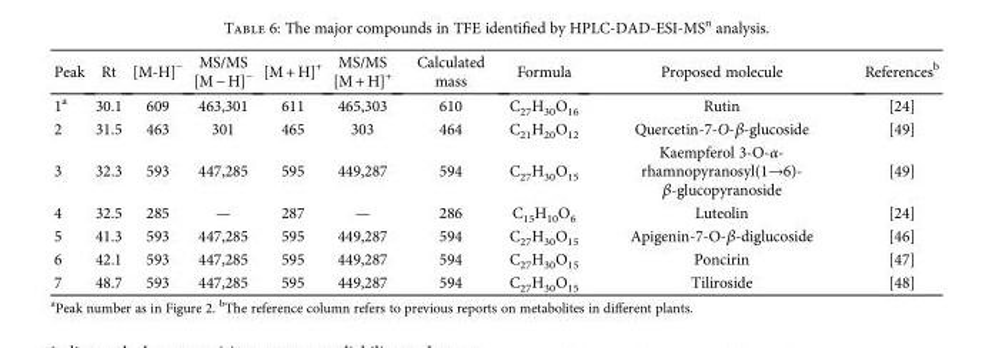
<table><thead><tr><td>Peak</td><td>Rt</td><td>[M-H]<sup>−</sup></td><td>MS/MS [M − H]<sup>−</sup></td><td>[M + H]<sup>+</sup></td><td>MS/MS [M + H]<sup>+</sup></td><td>Calculated mass</td><td>Formula</td><td>Proposed molecule</td><td>References<sup>b</sup></td></tr></thead><tbody><tr><td>1<sup>a</sup></td><td>30.1</td><td>609</td><td>463,301</td><td>611</td><td>465,303</td><td>610</td><td>C<sub>27</sub>H<sub>30</sub>O<sub>16</sub></td><td>Rutin</td><td>[24]</td></tr><tr><td>2</td><td>31.5</td><td>463</td><td>301</td><td>465</td><td>303</td><td>464</td><td>C<sub>21</sub>H<sub>20</sub>O<sub>12</sub></td><td>Quercetin-7-O-β-glucoside</td><td>[49]</td></tr><tr><td>3</td><td>32.3</td><td>593</td><td>447,285</td><td>595</td><td>449,287</td><td>594</td><td>C<sub>27</sub>H<sub>30</sub>O<sub>15</sub></td><td>Kaempferol 3-O-α- rhamnopyranosyl(1→6)- β-glucopyranoside</td><td>[49]</td></tr><tr><td>4</td><td>32.5</td><td>285</td><td>—</td><td>287</td><td>—</td><td>286</td><td>C<sub>15</sub>H<sub>10</sub>O<sub>6</sub></td><td>Luteolin</td><td>[24]</td></tr><tr><td>5</td><td>41.3</td><td>593</td><td>447,285</td><td>595</td><td>449,287</td><td>594</td><td>C<sub>27</sub>H<sub>30</sub>O<sub>15</sub></td><td>Apigenin-7-O-β-diglucoside</td><td>[46]</td></tr><tr><td>6</td><td>42.1</td><td>593</td><td>447,285</td><td>595</td><td>449,287</td><td>594</td><td>C<sub>27</sub>H<sub>30</sub>O<sub>15</sub></td><td>Poncirin</td><td>[47]</td></tr><tr><td>7</td><td>48.7</td><td>593</td><td>447,285</td><td>595</td><td>449,287</td><td>594</td><td>C<sub>27</sub>H<sub>30</sub>O<sub>15</sub></td><td>Tiliroside</td><td>[48]</td></tr></tbody></table>